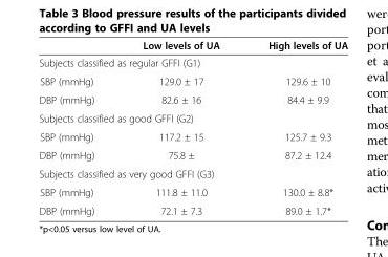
<table><thead><tr><td></td><td>Low levels of UA</td><td>High levels of UA</td></tr></thead><tbody><tr><td colspan="3">Subjects classified as regular GFFI (G1)</td></tr><tr><td>SBP (mmHg)</td><td>129.0 ± 17</td><td>129.6 ± 10</td></tr><tr><td>DBP (mmHg)</td><td>82.6 ± 16</td><td>84.4 ± 9.9</td></tr><tr><td colspan="3">Subjects classified as good GFFI (G2)</td></tr><tr><td>SBP (mmHg)</td><td>117.2 ± 15</td><td>125.7 ± 9.3</td></tr><tr><td>DBP (mmHg)</td><td>75.8 ±</td><td>87.2 ± 12.4</td></tr><tr><td colspan="3">Subjects classified as very good GFFI (G3)</td></tr><tr><td>SBP (mmHg)</td><td>111.8 ± 11.0</td><td>130.0 ± 8.8*</td></tr><tr><td>DBP (mmHg)</td><td>72.1 ± 7.3</td><td>89.0 ± 1.7*</td></tr></tbody></table>